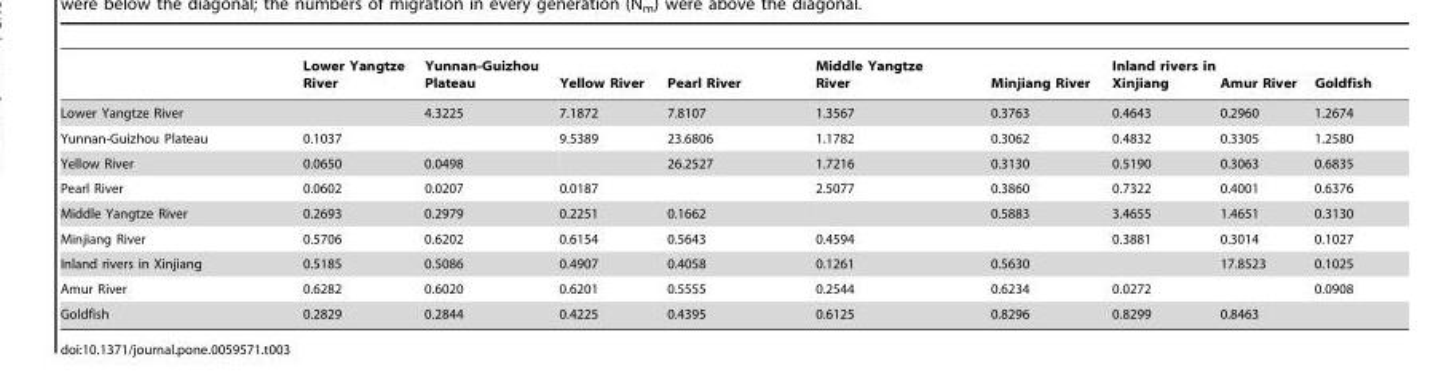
<table><thead><tr><td></td><td>Lower Yangtze River</td><td>Yunnan-Guizhou Plateau</td><td>Yellow River</td><td>Pearl River</td><td>Middle Yangtze River</td><td>Minjiang River</td><td>Inland rivers in Xinjiang</td><td>Amur River</td><td>Goldfish</td></tr></thead><tbody><tr><td>Lower Yangtze River</td><td></td><td>4.3225</td><td>7.1872</td><td>7.8107</td><td>1.3567</td><td>0.3763</td><td>0.4643</td><td>0.2960</td><td>1.2674</td></tr><tr><td>Yunnan-Guizhou Plateau</td><td>0.1037</td><td></td><td>9.5389</td><td>23.6806</td><td>1.1782</td><td>0.3062</td><td>0.4832</td><td>0.3305</td><td>1.2580</td></tr><tr><td>Yellow River</td><td>0.0650</td><td>0.0498</td><td></td><td>26.2527</td><td>1.7216</td><td>0.3130</td><td>0.5190</td><td>0.3063</td><td>0.6835</td></tr><tr><td>Pearl River</td><td>0.0602</td><td>0.0207</td><td>0.0187</td><td></td><td>2.5077</td><td>0.3860</td><td>0.7322</td><td>0.4001</td><td>0.6376</td></tr><tr><td>Middle Yangtze River</td><td>0.2693</td><td>0.2979</td><td>0.2251</td><td>0.1662</td><td></td><td>0.5883</td><td>3.4655</td><td>1.4651</td><td>0.3130</td></tr><tr><td>Minjiang River</td><td>0.5706</td><td>0.6202</td><td>0.6154</td><td>0.5643</td><td>0.4594</td><td></td><td>0.3881</td><td>0.3014</td><td>0.1027</td></tr><tr><td>Inland rivers in Xinjiang</td><td>0.5185</td><td>0.5086</td><td>0.4907</td><td>0.4058</td><td>0.1261</td><td>0.5630</td><td></td><td>17.8523</td><td>0.1025</td></tr><tr><td>Amur River</td><td>0.6282</td><td>0.6020</td><td>0.6201</td><td>0.5555</td><td>0.2544</td><td>0.6234</td><td>0.0272</td><td></td><td>0.0908</td></tr><tr><td>Goldfish</td><td>0.2829</td><td>0.2844</td><td>0.4225</td><td>0.4395</td><td>0.6125</td><td>0.8296</td><td>0.8299</td><td>0.8463</td><td></td></tr></tbody></table>